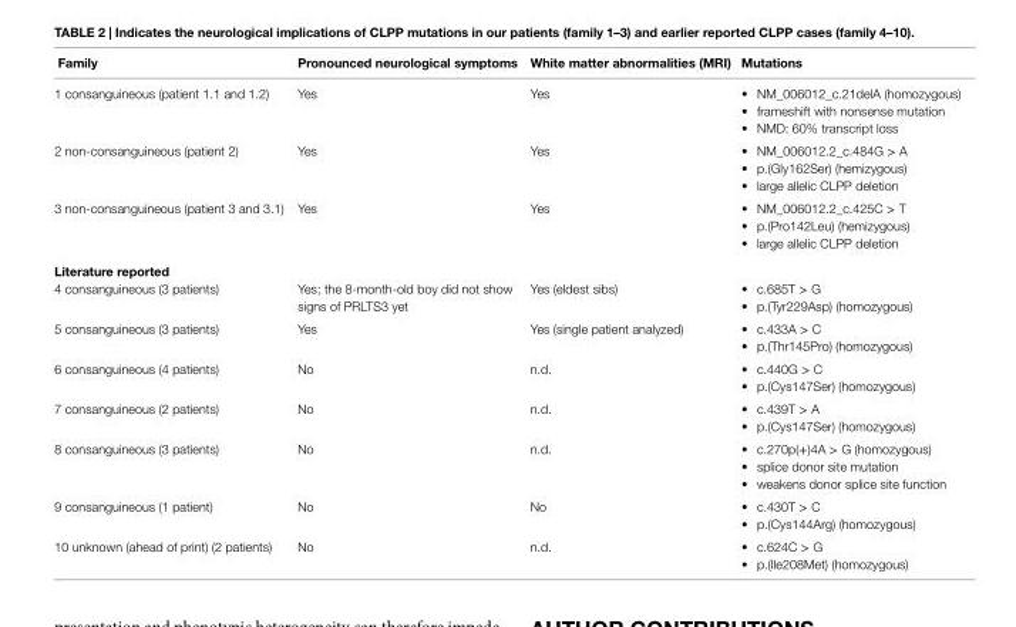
<table><thead><tr><td>Family</td><td>Pronounced neurological symptoms</td><td>White matter abnormalities (Mri)</td><td>Mutations</td></tr></thead><tbody><tr><td>1 consanguineous (patient 1.1 and 1.2)</td><td>Yes</td><td>Yes</td><td>• NM_006012_c.21delA (homozygous) • frameshift with nonsense mutation • NMD: 60% transcript loss</td></tr><tr><td>2 non-consanguineous (patient 2)</td><td>Yes</td><td>Yes</td><td>• NM_006012.2_c.484G &gt; A • p.(Gly162Ser) (hemizygous) • large allelic CLPP deletion</td></tr><tr><td>3 non-consanguineous (patient 3 and 3.1)</td><td>Yes</td><td>Yes</td><td>• NM_006012.2_c.425C &gt; T • p.(Pro142Leu) (hemizygous) • large allelic CLPP deletion</td></tr><tr><td colspan="4">literature reported</td></tr><tr><td>4 consanguineous (3 patients)</td><td>Yes; the 8-month-old boy did not show signs of PRLTS3 yet</td><td>Yes (eldest sibs)</td><td>• c.685T &gt; G • p.(Tyr229Asp) (homozygous)</td></tr><tr><td>5 consanguineous (3 patients)</td><td>Yes</td><td>Yes (single patient analyzed)</td><td>• c.433A &gt; C • p.(Thr145Pro) (homozygous)</td></tr><tr><td>6 consanguineous (4 patients)</td><td>No</td><td>n.d.</td><td>• c.440G &gt; C • p.(Cys147Ser) (homozygous)</td></tr><tr><td>7 consanguineous (2 patients)</td><td>No</td><td>n.d.</td><td>• c.439T &gt; A • p.(Cys147Ser) (homozygous)</td></tr><tr><td>8 consanguineous (3 patients)</td><td>No</td><td>n.d.</td><td>• c.270p(+)4A &gt; G (homozygous) • splice donor site mutation • weakens donor splice site function</td></tr><tr><td>9 consanguineous (1 patient)</td><td>No</td><td>No</td><td>• c.430T &gt; C • p.(Cys144Arg) (homozygous)</td></tr><tr><td>10 unknown (ahead of print) (2 patients)</td><td>No</td><td>n.d.</td><td>• c.624C &gt; G • p.(Ile208Met) (homozygous)</td></tr></tbody></table>